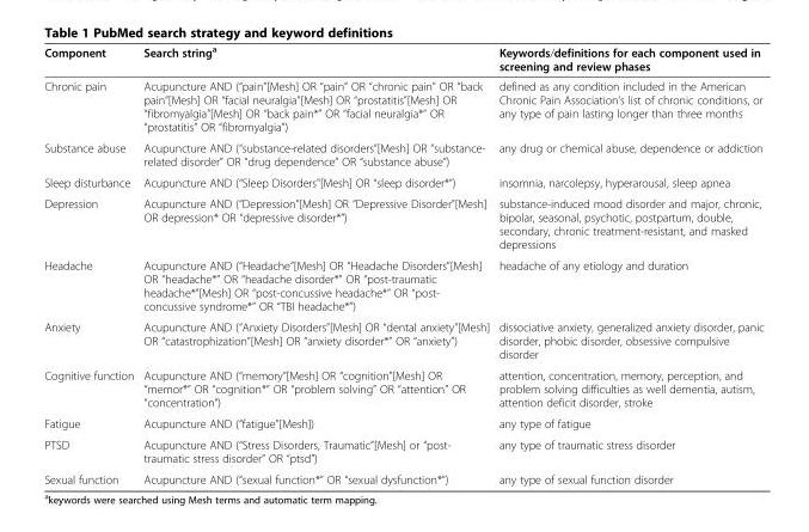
<table><thead><tr><td>Component</td><td>Search string<sup>a</sup></td><td>Keywords/definitions for each component used in screening and review phases</td></tr></thead><tbody><tr><td>Chronic pain</td><td>Acupuncture AND (“pain”[Mesh] OR “pain” OR “chronic pain” OR “back pain”[Mesh] OR “facial neuralgia”[Mesh] OR “prostatitis”[Mesh] OR “fibromyalgia”[Mesh] OR “back pain*” OR “facial neuralgia*” OR “prostatitis” OR “fibromyalgia”)</td><td>defined as any condition included in the American Chronic Pain Association’s list of chronic conditions, or any type of pain lasting longer than three months</td></tr><tr><td>Substance abuse</td><td>Acupuncture AND (“substance-related disorders”[Mesh] OR “substance- related disorder” OR “drug dependence” OR “substance abuse”)</td><td>any drug or chemical abuse, dependence or addiction</td></tr><tr><td>Sleep disturbance</td><td>Acupuncture AND (“Sleep Disorders&quot;[Mesh] OR “sleep disorder*”)</td><td>insomnia, narcolepsy, hyperarousal, sleep apnea</td></tr><tr><td>Depression</td><td>Acupuncture AND (“Depression”[Mesh] OR “Depressive Disorder”[Mesh] OR depression* OR “depressive disorder*”)</td><td>substance-induced mood disorder and major, chronic, bipolar, seasonal, psychotic, postpartum, double, secondary, chronic treatment-resistant, and masked depressions</td></tr><tr><td>Headache</td><td>Acupuncture AND (“Headache”[Mesh] OR “Headache Disorders”[Mesh] OR “headache*” OR “headache disorder*” OR “post-traumatic headache*”[Mesh] OR “post-concussive headache*” OR “post- concussive syndrome*” OR “TBI headache*”)</td><td>headache of any etiology and duration</td></tr><tr><td>Anxiety</td><td>Acupuncture AND (“Anxiety Disorders”[Mesh] OR “dental anxiety”[Mesh] OR “catastrophization”[Mesh] OR “anxiety disorder*” OR “anxiety”)</td><td>dissociative anxiety, generalized anxiety disorder, panic disorder, phobic disorder, obsessive compulsive disorder</td></tr><tr><td>Cognitive function</td><td>Acupuncture AND (“memory”[Mesh] OR “cognition”[Mesh] OR “memor*” OR “cognition*” OR “problem solving” OR “attention” OR “concentration”)</td><td>attention, concentration, memory, perception, and problem solving difficulties as well dementia, autism, attention deficit disorder, stroke</td></tr><tr><td>Fatigue</td><td>Acupuncture AND (“fatigue”[Mesh])</td><td>any type of fatigue</td></tr><tr><td>PTSD</td><td>Acupuncture AND (“Stress Disorders, Traumatic”[Mesh] or “post- traumatic stress disorder” OR “ptsd”)</td><td>any type of traumatic stress disorder</td></tr><tr><td>Sexual function</td><td>Acupuncture AND (“sexual function*” OR “sexual dysfunction*”)</td><td>any type of sexual function disorder</td></tr></tbody></table>